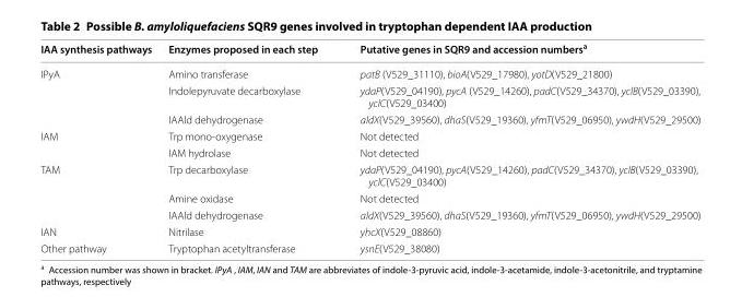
<table><thead><tr><td>IAA synthesis pathways</td><td>Enzymes proposed in each step</td><td>Putative genes in SQR9 and accession numbers<sup>a</sup></td></tr></thead><tbody><tr><td rowspan="3">IPyA</td><td>Amino transferase</td><td>patB (V529_31110), bioA(V529_17980), yotD(V529_21800)</td></tr><tr><td>Indolepyruvate decarboxylase</td><td>ydaP(V529_04190), pycA (V529_14260), padC(V529_34370), yclB(V529_03390), yclC(V529_03400)</td></tr><tr><td>IAAld dehydrogenase</td><td>aldX(V529_39560), dhaS(V529_19360), yfmT(V529_06950), ywdH(V529_29500)</td></tr><tr><td rowspan="2">IAM</td><td>Trp mono-oxygenase</td><td>Not detected</td></tr><tr><td>IAM hydrolase</td><td>Not detected</td></tr><tr><td rowspan="3">TAM</td><td>Trp decarboxylase</td><td>ydaP(V529_04190), pycA(V529_14260), padC(V529_34370), yclB(V529_03390), yclC(V529_03400)</td></tr><tr><td>Amine oxidase</td><td>Not detected</td></tr><tr><td>IAAld dehydrogenase</td><td>aldX(V529_39560), dhaS(V529_19360), yfmT(V529_06950), ywdH(V529_29500)</td></tr><tr><td>IAN</td><td>Nitrilase</td><td>yhcX(V529_08860)</td></tr><tr><td>Other pathway</td><td>Tryptophan acetyltransferase</td><td>ysnE(V529_38080)</td></tr></tbody></table>